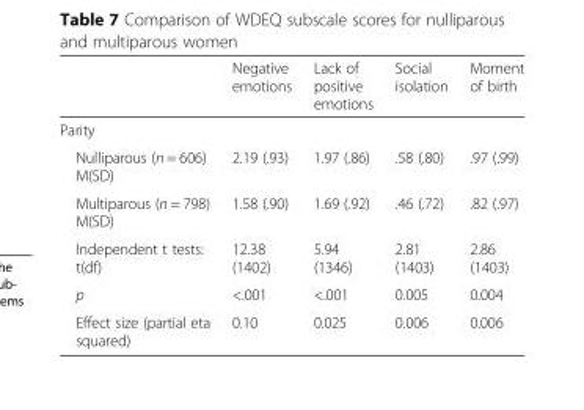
<table><thead><tr><td></td><td>Negative emotions</td><td>Lack of positive emotions</td><td>Social isolation</td><td>Moment of birth</td></tr></thead><tbody><tr><td colspan="5">Parity</td></tr><tr><td>Nulliparous (n = 606) M(SD)</td><td>2.19 (.93)</td><td>1.97 (.86)</td><td>.58 (.80)</td><td>.97 (.99)</td></tr><tr><td>Multiparous (n = 798) M(SD)</td><td>1.58 (.90)</td><td>1.69 (.92)</td><td>.46 (.72)</td><td>.82 (.97)</td></tr><tr><td>Independent t tests: t(df)</td><td>12.38 (1402)</td><td>5.94 (1346)</td><td>2.81 (1403)</td><td>2.86 (1403)</td></tr><tr><td>p</td><td>&lt;.001</td><td>&lt;.001</td><td>0.005</td><td>0.004</td></tr><tr><td>Effect size (partial eta squared)</td><td>0.10</td><td>0.025</td><td>0.006</td><td>0.006</td></tr></tbody></table>